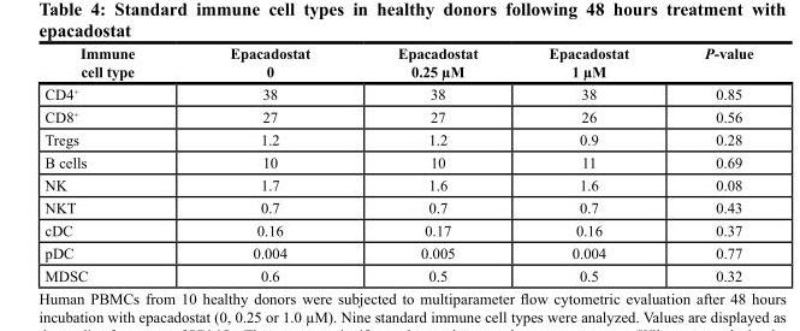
<table><thead><tr><td>Immune cell type</td><td>Epacadostat 0</td><td>Epacadostat 0.25 µM</td><td>Epacadostat 1 µM</td><td>P-value</td></tr></thead><tbody><tr><td>CD4<sup>+</sup></td><td>38</td><td>38</td><td>38</td><td>0.85</td></tr><tr><td>CD8<sup>+</sup></td><td>27</td><td>27</td><td>26</td><td>0.56</td></tr><tr><td>Tregs</td><td>1.2</td><td>1.2</td><td>0.9</td><td>0.28</td></tr><tr><td>B cells</td><td>10</td><td>10</td><td>11</td><td>0.69</td></tr><tr><td>NK</td><td>1.7</td><td>1.6</td><td>1.6</td><td>0.08</td></tr><tr><td>NKT</td><td>0.7</td><td>0.7</td><td>0.7</td><td>0.43</td></tr><tr><td>cDC</td><td>0.16</td><td>0.17</td><td>0.16</td><td>0.37</td></tr><tr><td>pDC</td><td>0.004</td><td>0.005</td><td>0.004</td><td>0.77</td></tr><tr><td>MDSC</td><td>0.6</td><td>0.5</td><td>0.5</td><td>0.32</td></tr></tbody></table>